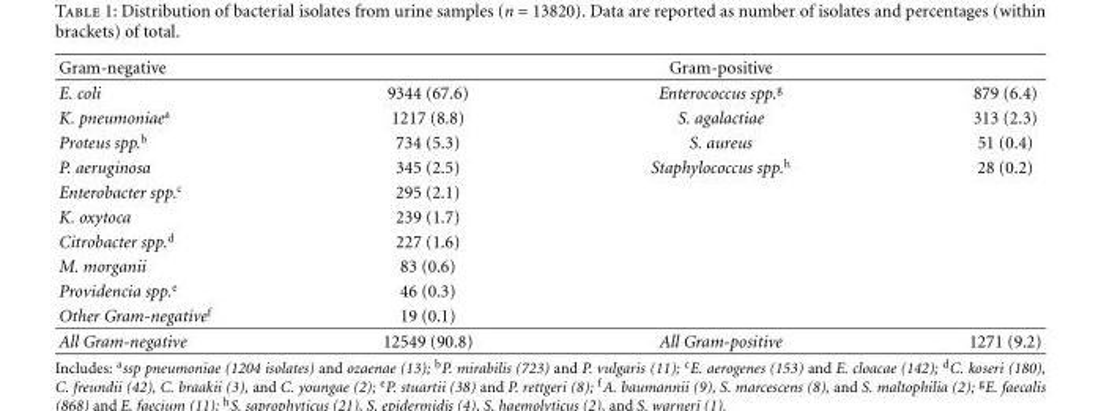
<table><thead><tr><td>Gram-negative</td><td></td><td>Gram-positive</td><td></td></tr></thead><tbody><tr><td>E. coli</td><td>9344 (67.6)</td><td>Enterococcus spp.<sup>g</sup></td><td>879 (6.4)</td></tr><tr><td>K. pneumoniae<sup>a</sup></td><td>1217 (8.8)</td><td>S. agalactiae</td><td>313 (2.3)</td></tr><tr><td>Proteus spp.<sup>b</sup></td><td>734 (5.3)</td><td>S. aureus</td><td>51 (0.4)</td></tr><tr><td>P. aeruginosa</td><td>345 (2.5)</td><td>Staphylococcus spp.<sup>h</sup></td><td>28 (0.2)</td></tr><tr><td>Enterobacter spp.<sup>c</sup></td><td>295 (2.1)</td><td></td><td></td></tr><tr><td>K. oxytoca</td><td>239 (1.7)</td><td></td><td></td></tr><tr><td>Citrobacter spp.<sup>d</sup></td><td>227 (1.6)</td><td></td><td></td></tr><tr><td>M. morganii</td><td>83 (0.6)</td><td></td><td></td></tr><tr><td>Providencia spp.<sup>e</sup></td><td>46 (0.3)</td><td></td><td></td></tr><tr><td>Other Gram-negative<sup>f</sup></td><td>19 (0.1)</td><td></td><td></td></tr><tr><td>All Gram-negative</td><td>12549 (90.8)</td><td>All Gram-positive</td><td>1271 (9.2)</td></tr></tbody></table>